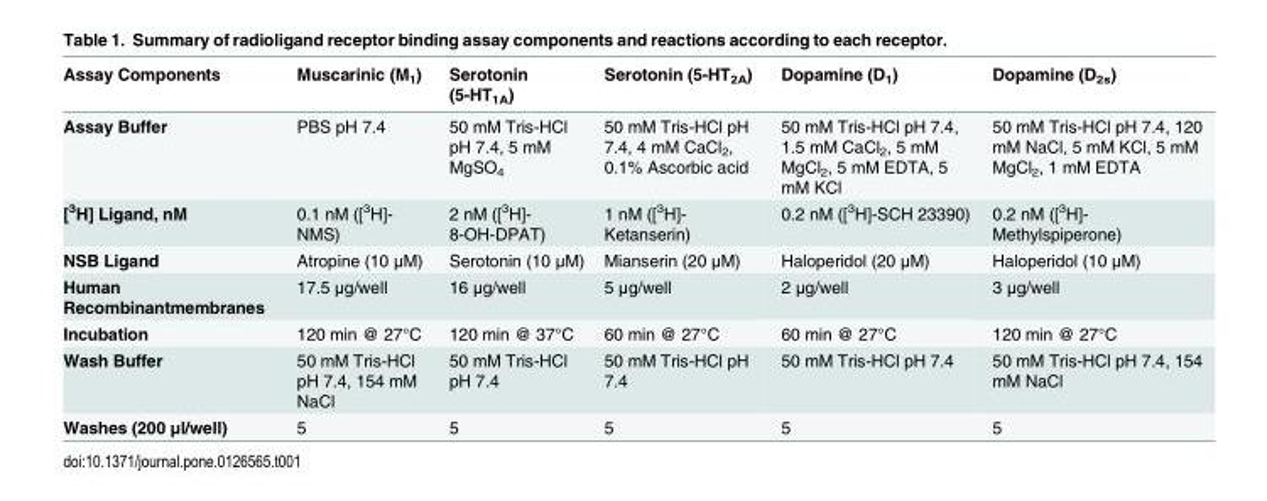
<table><thead><tr><td>Assay Components</td><td>Muscarinic (M<sub>1</sub>)</td><td>Serotonin (5-HT<sub>1A</sub>)</td><td>Serotonin (5-HT<sub>2A</sub>)</td><td>Dopamine (D<sub>1</sub>)</td><td>Dopamine (D<sub>2s</sub>)</td></tr></thead><tbody><tr><td>Assay Buffer</td><td>PBS pH 7.4</td><td>50 mM Tris-HCl pH 7.4, 5 mM MgSO<sub>4</sub></td><td>50 mM Tris-HCl pH 7.4, 4 mM CaCl<sub>2</sub>, 0.1% Ascorbic acid</td><td>50 mM Tris-HCl pH 7.4, 1.5 mM CaCl<sub>2</sub>, 5 mM MgCl<sub>2</sub>, 5 mM EDTA, 5 mM KCl</td><td>50 mM Tris-HCl pH 7.4, 120 mM NaCl, 5 mM KCl, 5 mM MgCl<sub>2</sub>, 1 mM EDTA</td></tr><tr><td>[<sup>3</sup>H] Ligand, nM</td><td>0.1 nM ([<sup>3</sup>H]- NMS)</td><td>2 nM ([<sup>3</sup>H]- 8-OH-DPAT)</td><td>1 nM ([<sup>3</sup>H]- Ketanserin)</td><td>0.2 nM ([<sup>3</sup>H]-SCH 23390)</td><td>0.2 nM ([<sup>3</sup>H]- Methylspiperone)</td></tr><tr><td>NSB Ligand</td><td>Atropine (10 μM)</td><td>Serotonin (10 μM)</td><td>Mianserin (20 μM)</td><td>Haloperidol (20 μM)</td><td>Haloperidol (10 μM)</td></tr><tr><td>Human Recombinantmembranes</td><td>17.5 μg/well</td><td>16 μg/well</td><td>5 μg/well</td><td>2 μg/well</td><td>3 μg/well</td></tr><tr><td>Incubation</td><td>120 min @ 27°C</td><td>120 min @ 37°C</td><td>60 min @ 27°C</td><td>60 min @ 27°C</td><td>120 min @ 27°C</td></tr><tr><td>Wash Buffer</td><td>50 mM Tris-HCl pH 7.4, 154 mM NaCl</td><td>50 mM Tris-HCl pH 7.4</td><td>50 mM Tris-HCl pH 7.4</td><td>50 mM Tris-HCl pH 7.4</td><td>50 mM Tris-HCl pH 7.4, 154 mM NaCl</td></tr><tr><td>Washes (200 μl/well)</td><td>5</td><td>5</td><td>5</td><td>5</td><td>5</td></tr></tbody></table>